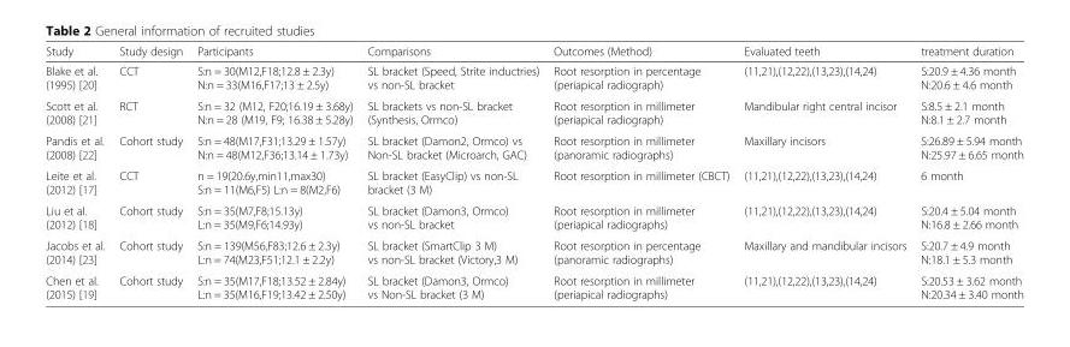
<table><thead><tr><td>Study</td><td>Study design</td><td>Participants</td><td>Comparisons</td><td>Outcomes (Method)</td><td>Evaluated teeth</td><td>treatment duration</td></tr></thead><tbody><tr><td>Blake et al. (1995) [20]</td><td>CCT</td><td>S:n = 30(M12,F18;12.8 ± 2.3y) N:n = 33(M16,F17;13 ± 2.5y)</td><td>SL bracket (Speed, Strite inductries) vs non-SL bracket</td><td>Root resorption in percentage (periapical radiograph)</td><td>(11,21),(12,22),(13,23),(14,24)</td><td>S:20.9 ± 4.36 month N:20.6 ± 4.6 month</td></tr><tr><td>Scott et al. (2008) [21]</td><td>RCT</td><td>S:n = 32 (M12, F20;16.19 ± 3.68y) N:n = 28 (M19, F9; 16.38 ± 5.28y)</td><td>SL brackets vs non-SL bracket (Synthesis, Ormco)</td><td>Root resorption in millimeter (periapical radiograph)</td><td>Mandibular right central incisor</td><td>S:8.5 ± 2.1 month N:8.1 ± 2.7 month</td></tr><tr><td>Pandis et al. (2008) [22]</td><td>Cohort study</td><td>S:n = 48(M17,F31;13.29 ± 1.57y) N:n = 48(M12,F36;13.14 ± 1.73y)</td><td>SL bracket (Damon2, Ormco) vs Non-SL bracket (Microarch, GAC)</td><td>Root resorption in millimeter (panoramic radiographs)</td><td>Maxillary incisors</td><td>S:26.89 ± 5.94 month N:25.97 ± 6.65 month</td></tr><tr><td>Leite et al. (2012) [17]</td><td>CCT</td><td>n = 19(20.6y,min11,max30) S:n = 11(M6,F5) L:n = 8(M2,F6)</td><td>SL bracket (EasyClip) vs non-SL bracket (3 M)</td><td>Root resorption in millimeter (CBCT)</td><td>(11,21),(12,22),(13,23),(14,24)</td><td>6 month</td></tr><tr><td>Liu et al. (2012) [18]</td><td>Cohort study</td><td>S:n = 35(M7,F8;15.13y) L:n = 35(M9,F6;14.93y)</td><td>SL bracket (Damon3, Ormco) vs non-SL bracket</td><td>Root resorption in millimeter (periapical radiographs)</td><td>(11,21),(12,22),(13,23),(14,24)</td><td>S:20.4 ± 5.04 month N:16.8 ± 2.66 month</td></tr><tr><td>Jacobs et al. (2014) [23]</td><td>Cohort study</td><td>S:n = 139(M56,F83;12.6 ± 2.3y) L:n = 74(M23,F51;12.1 ± 2.2y)</td><td>SL bracket (SmartClip 3 M) vs non-SL bracket (Victory,3 M)</td><td>Root resorption in percentage (panoramic radiographs)</td><td>Maxillary and mandibular incisors</td><td>S:20.7 ± 4.9 month N:18.1 ± 5.3 month</td></tr><tr><td>Chen et al. (2015) [19]</td><td>Cohort study</td><td>S:n = 35(M17,F18;13.52 ± 2.84y) L:n = 35(M16,F19;13.42 ± 2.50y)</td><td>SL bracket (Damon3, Ormco) vs Non-SL bracket (3 M)</td><td>Root resorption in millimeter (periapical radiographs)</td><td>(11,21),(12,22),(13,23),(14,24)</td><td>S:20.53 ± 3.62 month N:20.34 ± 3.40 month</td></tr></tbody></table>